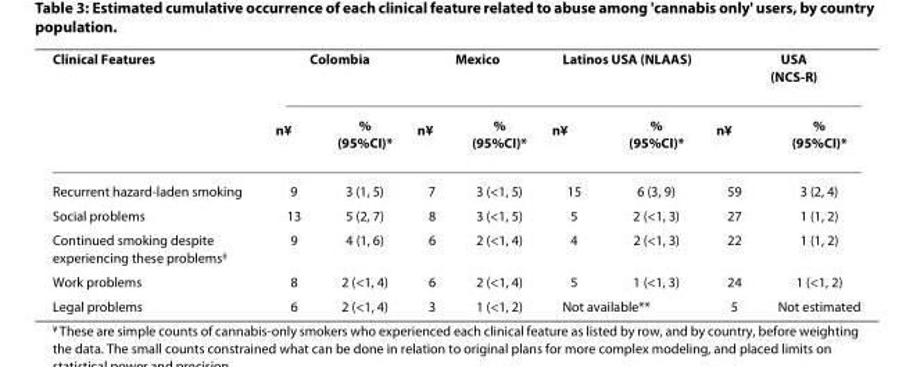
<table><thead><tr><td rowspan="2">Clinical Features</td><td colspan="2">Colombia</td><td colspan="2">Mexico</td><td colspan="2">Latinos USA (NLAAS)</td><td colspan="2">USA (NCS-R)</td></tr><tr><td>n<sup>¥</sup></td><td>% (95%CI)*</td><td>n<sup>¥</sup></td><td>% (95%CI)*</td><td>n<sup>¥</sup></td><td>% (95%CI)*</td><td>n<sup>¥</sup></td><td>% (95%CI)*</td></tr></thead><tbody><tr><td>Recurrent hazard-laden smoking</td><td>9</td><td>3 (1, 5)</td><td>7</td><td>3 (&lt;1, 5)</td><td>15</td><td>6 (3, 9)</td><td>59</td><td>3 (2, 4)</td></tr><tr><td>Social problems</td><td>13</td><td>5 (2, 7)</td><td>8</td><td>3 (&lt;1, 5)</td><td>5</td><td>2 (&lt;1, 3)</td><td>27</td><td>1 (1, 2)</td></tr><tr><td>Continued smoking despite experiencing these problems<sup>‡</sup></td><td>9</td><td>4 (1, 6)</td><td>6</td><td>2 (&lt;1, 4)</td><td>4</td><td>2 (&lt;1, 3)</td><td>22</td><td>1 (1, 2)</td></tr><tr><td>Work problems</td><td>8</td><td>2 (&lt;1, 4)</td><td>6</td><td>2 (&lt;1, 4)</td><td>5</td><td>1 (&lt;1, 3)</td><td>24</td><td>1 (&lt;1, 2)</td></tr><tr><td>Legal problems</td><td>6</td><td>2 (&lt;1, 4)</td><td>3</td><td>1 (&lt;1, 2)</td><td colspan="2">Not available**</td><td>5</td><td>Not estimated</td></tr></tbody></table>